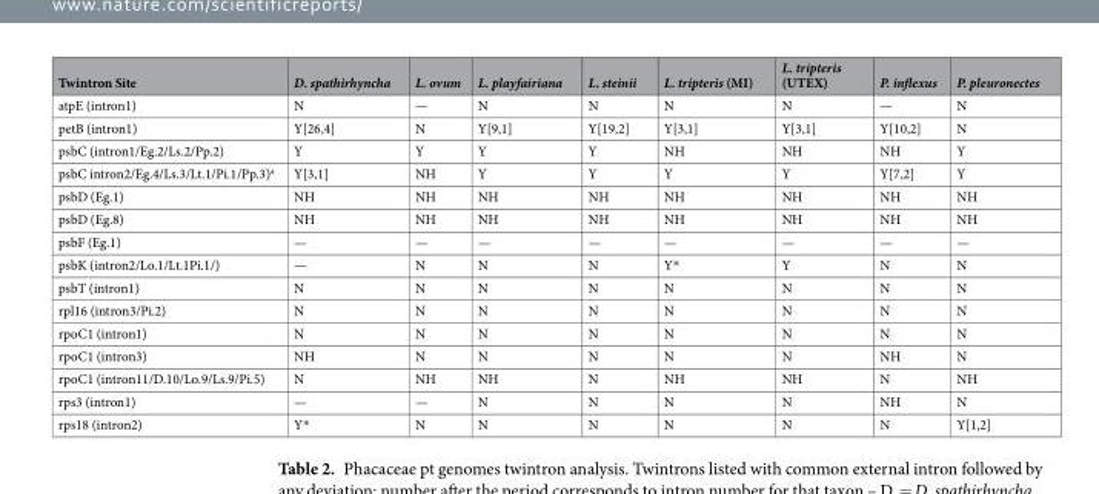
<table><thead><tr><td>Twintron Site</td><td>D. spathirhyncha</td><td>L. ovum</td><td>L. playfairiana</td><td>L. steinii</td><td>L. tripteris (MI)</td><td>L. tripteris (UTEX)</td><td>P. inflexus</td><td>P. pleuronectes</td></tr></thead><tbody><tr><td>atpE (intron1)</td><td>N</td><td>—</td><td>N</td><td>N</td><td>N</td><td>N</td><td>—</td><td>N</td></tr><tr><td>petB (intron1)</td><td>Y[26,4]</td><td>N</td><td>Y[9,1]</td><td>Y[19,2]</td><td>Y[3,1]</td><td>Y[3,1]</td><td>Y[10,2]</td><td>N</td></tr><tr><td>psbC (intron1/Eg.2/Ls.2/Pp.2)</td><td>Y</td><td>Y</td><td>Y</td><td>Y</td><td>NH</td><td>NH</td><td>NH</td><td>Y</td></tr><tr><td>psbC intron2/Eg.4/Ls.3/Lt.1/Pi.1/Pp.3)<sup>a</sup></td><td>Y[3,1]</td><td>NH</td><td>Y</td><td>Y</td><td>Y</td><td>Y</td><td>Y[7,2]</td><td>Y</td></tr><tr><td>psbD (Eg.1)</td><td>NH</td><td>NH</td><td>NH</td><td>NH</td><td>NH</td><td>NH</td><td>NH</td><td>NH</td></tr><tr><td>psbD (Eg.8)</td><td>NH</td><td>NH</td><td>NH</td><td>NH</td><td>NH</td><td>NH</td><td>NH</td><td>NH</td></tr><tr><td>psbF (Eg.1)</td><td>—</td><td>—</td><td>—</td><td>—</td><td>—</td><td>—</td><td>—</td><td>—</td></tr><tr><td>psbK (intron2/Lo.1/Lt.1Pi.1/)</td><td>—</td><td>N</td><td>N</td><td>N</td><td>Y*</td><td>Y</td><td>N</td><td>N</td></tr><tr><td>psbT (intron1)</td><td>N</td><td>N</td><td>N</td><td>N</td><td>N</td><td>N</td><td>N</td><td>N</td></tr><tr><td>rpl16 (intron3/Pi.2)</td><td>N</td><td>N</td><td>N</td><td>N</td><td>N</td><td>N</td><td>N</td><td>N</td></tr><tr><td>rpoC1 (intron1)</td><td>N</td><td>N</td><td>N</td><td>N</td><td>N</td><td>N</td><td>N</td><td>N</td></tr><tr><td>rpoC1 (intron3)</td><td>NH</td><td>N</td><td>N</td><td>N</td><td>N</td><td>N</td><td>NH</td><td>N</td></tr><tr><td>rpoC1 (intron11/D.10/Lo.9/Ls.9/Pi.5)</td><td>N</td><td>NH</td><td>NH</td><td>N</td><td>NH</td><td>NH</td><td>N</td><td>NH</td></tr><tr><td>rps3 (intron1)</td><td>—</td><td>—</td><td>N</td><td>N</td><td>N</td><td>N</td><td>NH</td><td>N</td></tr><tr><td>rps18 (intron2)</td><td>Y*</td><td>N</td><td>N</td><td>N</td><td>N</td><td>N</td><td>N</td><td>Y[1,2]</td></tr></tbody></table>